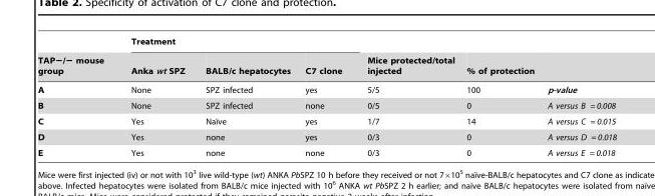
<table><thead><tr><td rowspan="2">TAP−/− mouse group</td><td colspan="3">Treatment</td><td rowspan="2">Mice protected/total injected</td><td rowspan="2">% of protection</td><td rowspan="2"></td></tr><tr><td>Anka wt SPZ</td><td>BALB/c hepatocytes</td><td>C7 clone</td></tr></thead><tbody><tr><td>A</td><td>None</td><td>SPZ infected</td><td>yes</td><td>5/5</td><td>100</td><td>p-value</td></tr><tr><td>B</td><td>None</td><td>SPZ infected</td><td>none</td><td>0/5</td><td>0</td><td>A versus B = 0.008</td></tr><tr><td>C</td><td>Yes</td><td>Naı¨ve</td><td>yes</td><td>1/7</td><td>14</td><td>A versus C = 0.015</td></tr><tr><td>D</td><td>Yes</td><td>none</td><td>yes</td><td>0/3</td><td>0</td><td>A versus D = 0.018</td></tr><tr><td>E</td><td>Yes</td><td>none</td><td>none</td><td>0/3</td><td>0</td><td>A versus E = 0.018</td></tr></tbody></table>